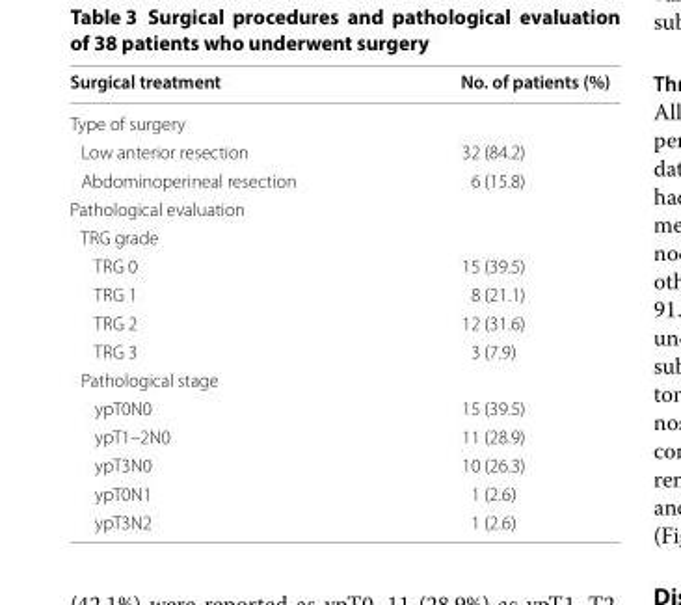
<table><thead><tr><td>Surgical treatment</td><td>No. of patients (%)</td></tr></thead><tbody><tr><td colspan="2">Type of surgery</td></tr><tr><td>Low anterior resection</td><td>32 (84.2)</td></tr><tr><td>Abdominoperineal resection</td><td>6 (15.8)</td></tr><tr><td colspan="2">Pathological evaluation</td></tr><tr><td colspan="2">TRG grade</td></tr><tr><td>TRG 0</td><td>15 (39.5)</td></tr><tr><td>TRG 1</td><td>8 (21.1)</td></tr><tr><td>TRG 2</td><td>12 (31.6)</td></tr><tr><td>TRG 3</td><td>3 (7.9)</td></tr><tr><td colspan="2">Pathological stage</td></tr><tr><td>ypT0N0</td><td>15 (39.5)</td></tr><tr><td>ypT1–2N0</td><td>11 (28.9)</td></tr><tr><td>ypT3N0</td><td>10 (26.3)</td></tr><tr><td>ypT0N1</td><td>1 (2.6)</td></tr><tr><td>ypT3N2</td><td>1 (2.6)</td></tr></tbody></table>